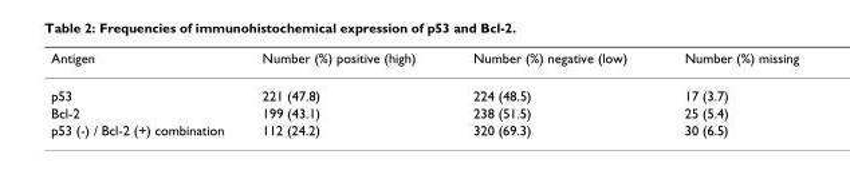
<table><thead><tr><td>Antigen</td><td>Number (%) positive (high)</td><td>Number (%) negative (low)</td><td>Number (%) missing</td></tr></thead><tbody><tr><td>p53</td><td>221 (47.8)</td><td>224 (48.5)</td><td>17 (3.7)</td></tr><tr><td>Bcl-2</td><td>199 (43.1)</td><td>238 (51.5)</td><td>25 (5.4)</td></tr><tr><td>p53 (-) / Bcl-2 (+) combination</td><td>112 (24.2)</td><td>320 (69.3)</td><td>30 (6.5)</td></tr></tbody></table>